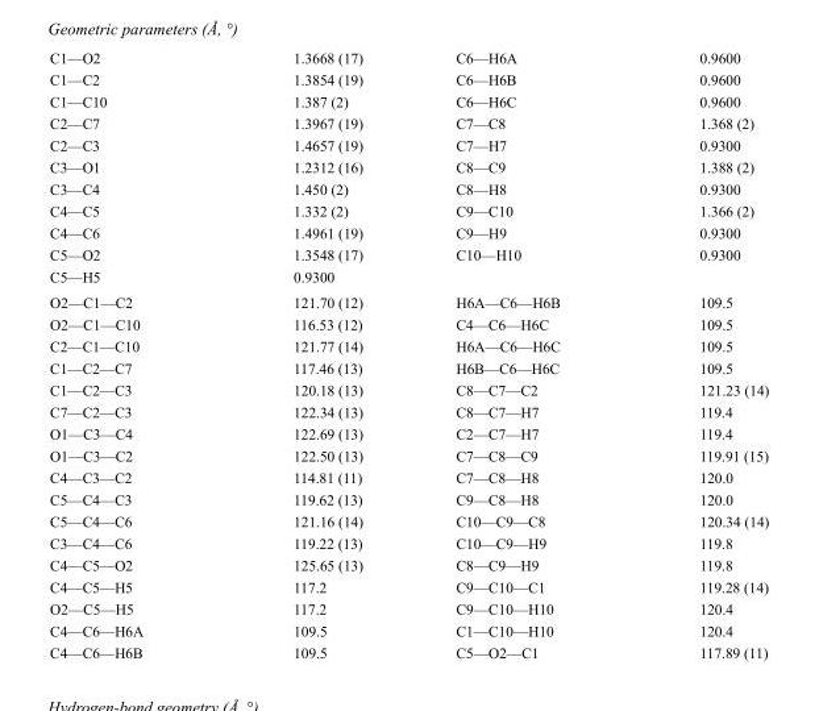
<table><tbody><tr><td>C1—O2</td><td>1.3668 (17)</td><td>C6—H6A</td><td>0.9600</td></tr><tr><td>C1—C2</td><td>1.3854 (19)</td><td>C6—H6B</td><td>0.9600</td></tr><tr><td>C1—C10</td><td>1.387 (2)</td><td>C6—H6C</td><td>0.9600</td></tr><tr><td>C2—C7</td><td>1.3967 (19)</td><td>C7—C8</td><td>1.368 (2)</td></tr><tr><td>C2—C3</td><td>1.4657 (19)</td><td>C7—H7</td><td>0.9300</td></tr><tr><td>C3—O1</td><td>1.2312 (16)</td><td>C8—C9</td><td>1.388 (2)</td></tr><tr><td>C3—C4</td><td>1.450 (2)</td><td>C8—H8</td><td>0.9300</td></tr><tr><td>C4—C5</td><td>1.332 (2)</td><td>C9—C10</td><td>1.366 (2)</td></tr><tr><td>C4—C6</td><td>1.4961 (19)</td><td>C9—H9</td><td>0.9300</td></tr><tr><td>C5—O2</td><td>1.3548 (17)</td><td>C10—H10</td><td>0.9300</td></tr><tr><td>C5—H5</td><td>0.9300</td><td></td><td></td></tr><tr><td>O2—C1—C2</td><td>121.70 (12)</td><td>H6A—C6—H6B</td><td>109.5</td></tr><tr><td>O2—C1—C10</td><td>116.53 (12)</td><td>C4—C6—H6C</td><td>109.5</td></tr><tr><td>C2—C1—C10</td><td>121.77 (14)</td><td>H6A—C6—H6C</td><td>109.5</td></tr><tr><td>C1—C2—C7</td><td>117.46 (13)</td><td>H6B—C6—H6C</td><td>109.5</td></tr><tr><td>C1—C2—C3</td><td>120.18 (13)</td><td>C8—C7—C2</td><td>121.23 (14)</td></tr><tr><td>C7—C2—C3</td><td>122.34 (13)</td><td>C8—C7—H7</td><td>119.4</td></tr><tr><td>O1—C3—C4</td><td>122.69 (13)</td><td>C2—C7—H7</td><td>119.4</td></tr><tr><td>O1—C3—C2</td><td>122.50 (13)</td><td>C7—C8—C9</td><td>119.91 (15)</td></tr><tr><td>C4—C3—C2</td><td>114.81 (11)</td><td>C7—C8—H8</td><td>120.0</td></tr><tr><td>C5—C4—C3</td><td>119.62 (13)</td><td>C9—C8—H8</td><td>120.0</td></tr><tr><td>C5—C4—C6</td><td>121.16 (14)</td><td>C10—C9—C8</td><td>120.34 (14)</td></tr><tr><td>C3—C4—C6</td><td>119.22 (13)</td><td>C10—C9—H9</td><td>119.8</td></tr><tr><td>C4—C5—O2</td><td>125.65 (13)</td><td>C8—C9—H9</td><td>119.8</td></tr><tr><td>C4—C5—H5</td><td>117.2</td><td>C9—C10—C1</td><td>119.28 (14)</td></tr><tr><td>O2—C5—H5</td><td>117.2</td><td>C9—C10—H10</td><td>120.4</td></tr><tr><td>C4—C6—H6A</td><td>109.5</td><td>C1—C10—H10</td><td>120.4</td></tr><tr><td>C4—C6—H6B</td><td>109.5</td><td>C5—O2—C1</td><td>117.89 (11)</td></tr></tbody></table>